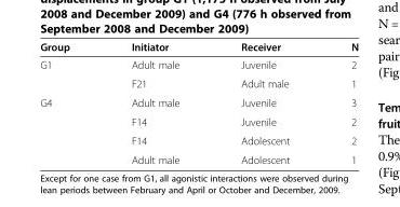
<table><thead><tr><td>Group</td><td>Initiator</td><td>Receiver</td><td>N</td></tr></thead><tbody><tr><td rowspan="2">G1</td><td>Adult male</td><td>Juvenile</td><td>2</td></tr><tr><td>F21</td><td>Adult male</td><td>1</td></tr><tr><td rowspan="4">G4</td><td>Adult male</td><td>Juvenile</td><td>3</td></tr><tr><td>F14</td><td>Juvenile</td><td>2</td></tr><tr><td>F14</td><td>Adolescent</td><td>2</td></tr><tr><td>Adult male</td><td>Adolescent</td><td>1</td></tr></tbody></table>